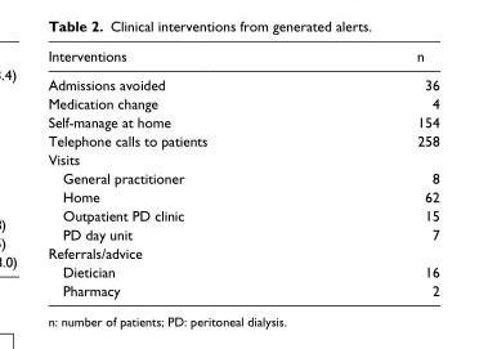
<table><thead><tr><td>Interventions</td><td>n</td></tr></thead><tbody><tr><td>Admissions avoided</td><td>36</td></tr><tr><td>Medication change</td><td>4</td></tr><tr><td>Self-manage at home</td><td>154</td></tr><tr><td>Telephone calls to patients</td><td>258</td></tr><tr><td colspan="2">Visits</td></tr><tr><td>General practitioner</td><td>8</td></tr><tr><td>Home</td><td>62</td></tr><tr><td>Outpatient PD clinic</td><td>15</td></tr><tr><td>PD day unit</td><td>7</td></tr><tr><td colspan="2">Referrals/advice</td></tr><tr><td>Dietician</td><td>16</td></tr><tr><td>Pharmacy</td><td>2</td></tr></tbody></table>